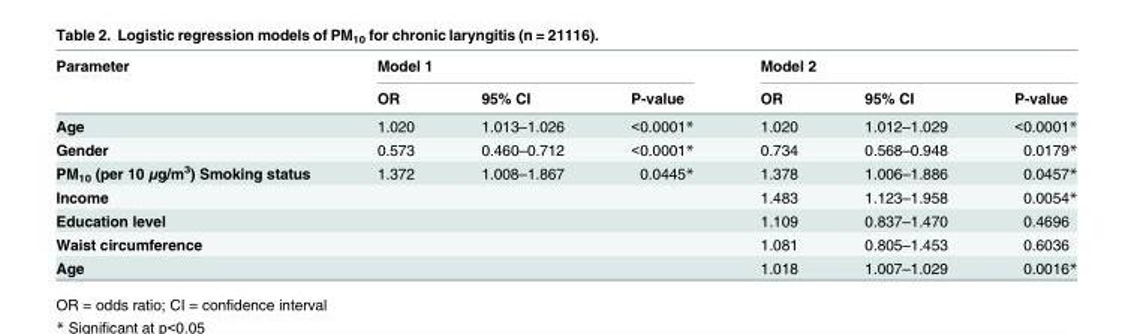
<table><thead><tr><td rowspan="2">Parameter</td><td colspan="3">Model 1</td><td colspan="3">Model 2</td></tr><tr><td>OR</td><td>95% CI</td><td>P-value</td><td>OR</td><td>95% CI</td><td>P-value</td></tr></thead><tbody><tr><td>Age</td><td>1.020</td><td>1.013–1.026</td><td>&lt;0.0001*</td><td>1.020</td><td>1.012–1.029</td><td>&lt;0.0001*</td></tr><tr><td>Gender</td><td>0.573</td><td>0.460–0.712</td><td>&lt;0.0001*</td><td>0.734</td><td>0.568–0.948</td><td>0.0179*</td></tr><tr><td>PM<sub>10</sub> (per 10 μg/m<sup>3</sup>) Smoking status</td><td>1.372</td><td>1.008–1.867</td><td>0.0445*</td><td>1.378</td><td>1.006–1.886</td><td>0.0457*</td></tr><tr><td>Income</td><td></td><td></td><td></td><td>1.483</td><td>1.123–1.958</td><td>0.0054*</td></tr><tr><td>Education level</td><td></td><td></td><td></td><td>1.109</td><td>0.837–1.470</td><td>0.4696</td></tr><tr><td>Waist circumference</td><td></td><td></td><td></td><td>1.081</td><td>0.805–1.453</td><td>0.6036</td></tr><tr><td>Age</td><td></td><td></td><td></td><td>1.018</td><td>1.007–1.029</td><td>0.0016*</td></tr></tbody></table>